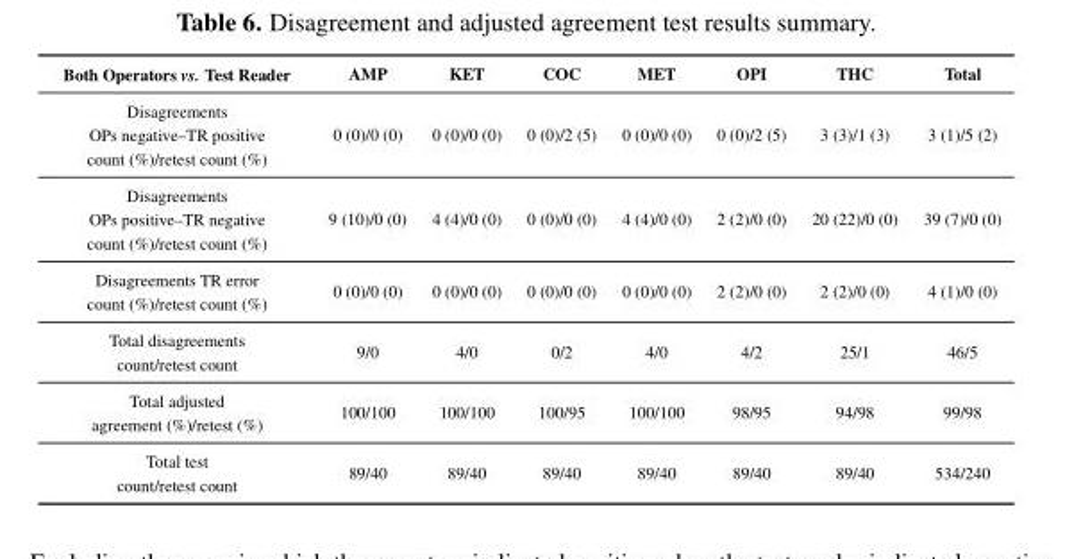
<table><thead><tr><td>Both Operators vs. Test Reader</td><td>AMP</td><td>KET</td><td>COC</td><td>MET</td><td>OPI</td><td>THC</td><td>Total</td></tr></thead><tbody><tr><td>Disagreements OPs negative–TR positive count (%)/retest count (%)</td><td>0 (0)/0 (0)</td><td>0 (0)/0 (0)</td><td>0 (0)/2 (5)</td><td>0 (0)/0 (0)</td><td>0 (0)/2 (5)</td><td>3 (3)/1 (3)</td><td>3 (1)/5 (2)</td></tr><tr><td>Disagreements OPs positive–TR negative count (%)/retest count (%)</td><td>9 (10)/0 (0)</td><td>4 (4)/0 (0)</td><td>0 (0)/0 (0)</td><td>4 (4)/0 (0)</td><td>2 (2)/0 (0)</td><td>20 (22)/0 (0)</td><td>39 (7)/0 (0)</td></tr><tr><td>Disagreements TR error count (%)/retest count (%)</td><td>0 (0)/0 (0)</td><td>0 (0)/0 (0)</td><td>0 (0)/0 (0)</td><td>0 (0)/0 (0)</td><td>2 (2)/0 (0)</td><td>2 (2)/0 (0)</td><td>4 (1)/0 (0)</td></tr><tr><td>Total disagreements count/retest count</td><td>9/0</td><td>4/0</td><td>0/2</td><td>4/0</td><td>4/2</td><td>25/1</td><td>46/5</td></tr><tr><td>Total adjusted agreement (%)/retest (%)</td><td>100/100</td><td>100/100</td><td>100/95</td><td>100/100</td><td>98/95</td><td>94/98</td><td>99/98</td></tr><tr><td>Total test count/retest count</td><td>89/40</td><td>89/40</td><td>89/40</td><td>89/40</td><td>89/40</td><td>89/40</td><td>534/240</td></tr></tbody></table>